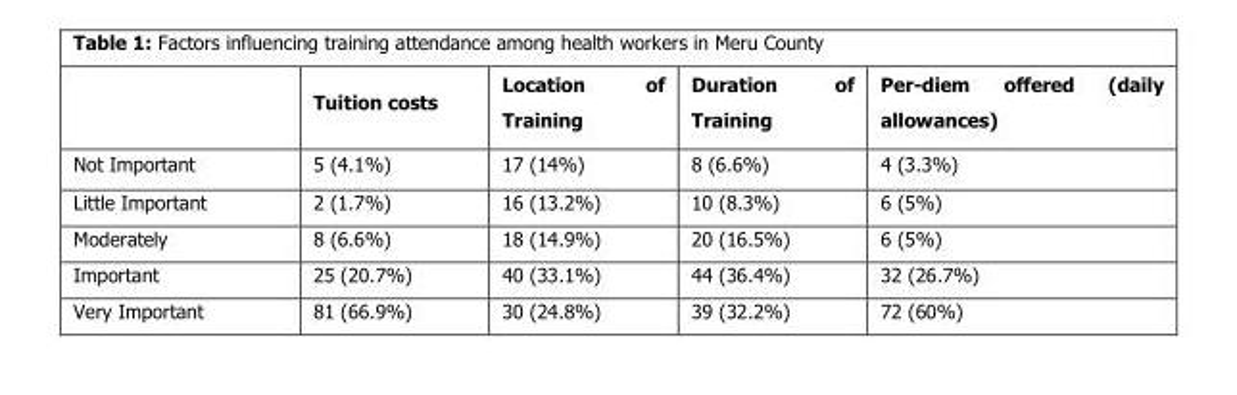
<table><thead><tr><td></td><td>Tuition costs</td><td>Location of Training</td><td>Duration of Training</td><td>Per-diem offered (daily allowances)</td></tr></thead><tbody><tr><td>Not Important</td><td>5 (4.1%)</td><td>17 (14%)</td><td>8 (6.6%)</td><td>4 (3.3%)</td></tr><tr><td>Little Important</td><td>2 (1.7%)</td><td>16 (13.2%)</td><td>10 (8.3%)</td><td>6 (5%)</td></tr><tr><td>Moderately</td><td>8 (6.6%)</td><td>18 (14.9%)</td><td>20 (16.5%)</td><td>6 (5%)</td></tr><tr><td>Important</td><td>25 (20.7%)</td><td>40 (33.1%)</td><td>44 (36.4%)</td><td>32 (26.7%)</td></tr><tr><td>Very Important</td><td>81 (66.9%)</td><td>30 (24.8%)</td><td>39 (32.2%)</td><td>72 (60%)</td></tr></tbody></table>